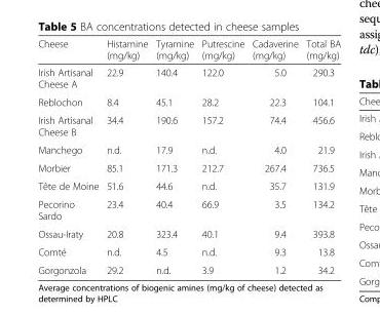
<table><thead><tr><td>Cheese</td><td>Histamine (mg/kg)</td><td>Tyramine (mg/kg)</td><td>Putrescine (mg/kg)</td><td>Cadaverine (mg/kg)</td><td>Total BA (mg/kg)</td></tr></thead><tbody><tr><td>Irish Artisanal Cheese A</td><td>22.9</td><td>140.4</td><td>122.0</td><td>5.0</td><td>290.3</td></tr><tr><td>Reblochon</td><td>8.4</td><td>45.1</td><td>28.2</td><td>22.3</td><td>104.1</td></tr><tr><td>Irish Artisanal Cheese B</td><td>34.4</td><td>190.6</td><td>157.2</td><td>74.4</td><td>456.6</td></tr><tr><td>Manchego</td><td>n.d.</td><td>17.9</td><td>n.d.</td><td>4.0</td><td>21.9</td></tr><tr><td>Morbier</td><td>85.1</td><td>171.3</td><td>212.7</td><td>267.4</td><td>736.5</td></tr><tr><td>Tête de Moine</td><td>51.6</td><td>44.6</td><td>n.d.</td><td>35.7</td><td>131.9</td></tr><tr><td>Pecorino Sardo</td><td>23.4</td><td>40.4</td><td>66.9</td><td>3.5</td><td>134.2</td></tr><tr><td>Ossau-Iraty</td><td>20.8</td><td>323.4</td><td>40.1</td><td>9.4</td><td>393.8</td></tr><tr><td>Comté</td><td>n.d.</td><td>4.5</td><td>n.d.</td><td>9.3</td><td>13.8</td></tr><tr><td>Gorgonzola</td><td>29.2</td><td>n.d.</td><td>3.9</td><td>1.2</td><td>34.2</td></tr></tbody></table>